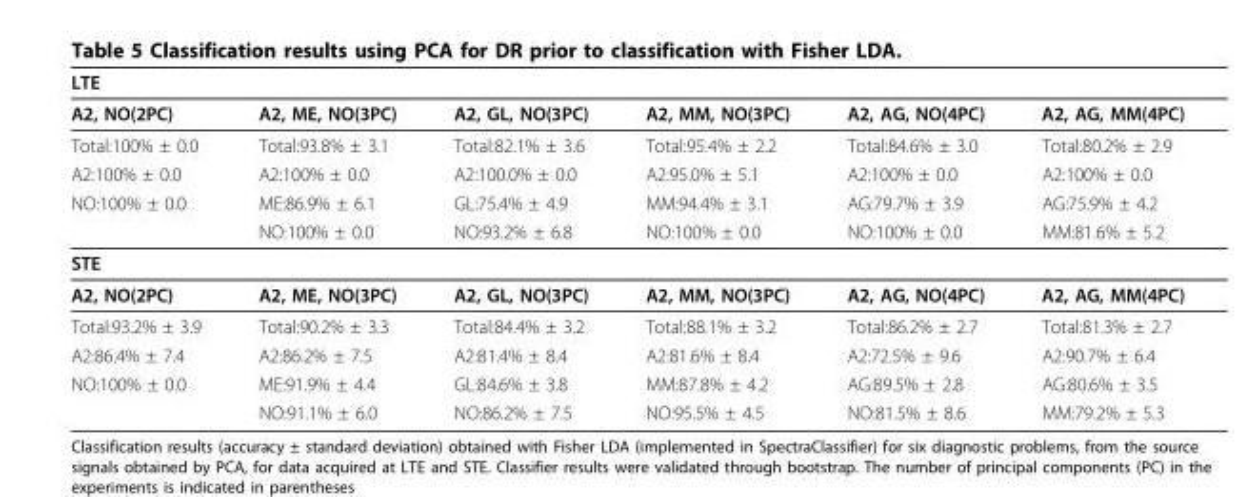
<table><thead><tr><td>LTE</td><td></td><td></td><td></td><td></td><td></td></tr></thead><tbody><tr><td>A2, NO(2PC)</td><td>A2, ME, NO(3PC)</td><td>A2, GL, NO(3PC)</td><td>A2, MM, NO(3PC)</td><td>A2, AG, NO(4PC)</td><td>A2, AG, MM(4PC)</td></tr><tr><td>Total:100% ± 0.0</td><td>Total:93.8% ± 3.1</td><td>Total:82.1% ± 3.6</td><td>Total:95.4% ± 2.2</td><td>Total:84.6% ± 3.0</td><td>Total:80.2% ± 2.9</td></tr><tr><td>A2:100% ± 0.0</td><td>A2:100% ± 0.0</td><td>A2:100.0% ± 0.0</td><td>A2:95.0% ± 5.1</td><td>A2:100% ± 0.0</td><td>A2:100% ± 0.0</td></tr><tr><td rowspan="2">NO:100% ± 0.0</td><td>ME:86.9% ± 6.1</td><td>GL:75.4% ± 4.9</td><td>MM:94.4% ± 3.1</td><td>AG:79.7% ± 3.9</td><td>AG:75.9% ± 4.2</td></tr><tr><td>NO:100% ± 0.0</td><td>NO:93.2% ± 6.8</td><td>NO:100% ± 0.0</td><td>NO:100% ± 0.0</td><td>MM:81.6% ± 5.2</td></tr><tr><td colspan="6">STE</td></tr><tr><td>A2, NO(2PC)</td><td>A2, ME, NO(3PC)</td><td>A2, GL, NO(3PC)</td><td>A2, MM, NO(3PC)</td><td>A2, AG, NO(4PC)</td><td>A2, AG, MM(4PC)</td></tr><tr><td>Total:93.2% ± 3.9</td><td>Total:90.2% ± 3.3</td><td>Total:84.4% ± 3.2</td><td>Total:88.1% ± 3.2</td><td>Total:86.2% ± 2.7</td><td>Total:81.3% ± 2.7</td></tr><tr><td>A2:86.4% ± 7.4</td><td>A2:86.2% ± 7.5</td><td>A2:81.4% ± 8.4</td><td>A2:81.6% ± 8.4</td><td>A2:72.5% ± 9.6</td><td>A2:90.7% ± 6.4</td></tr><tr><td rowspan="2">NO:100% ± 0.0</td><td>ME:91.9% ± 4.4</td><td>GL:84.6% ± 3.8</td><td>MM:87.8% ± 4.2</td><td>AG:89.5% ± 2.8</td><td>AG:80.6% ± 3.5</td></tr><tr><td>NO:91.1% ± 6.0</td><td>NO:86.2% ± 7.5</td><td>NO:95.5% ± 4.5</td><td>NO:81.5% ± 8.6</td><td>MM:79.2% ± 5.3</td></tr></tbody></table>